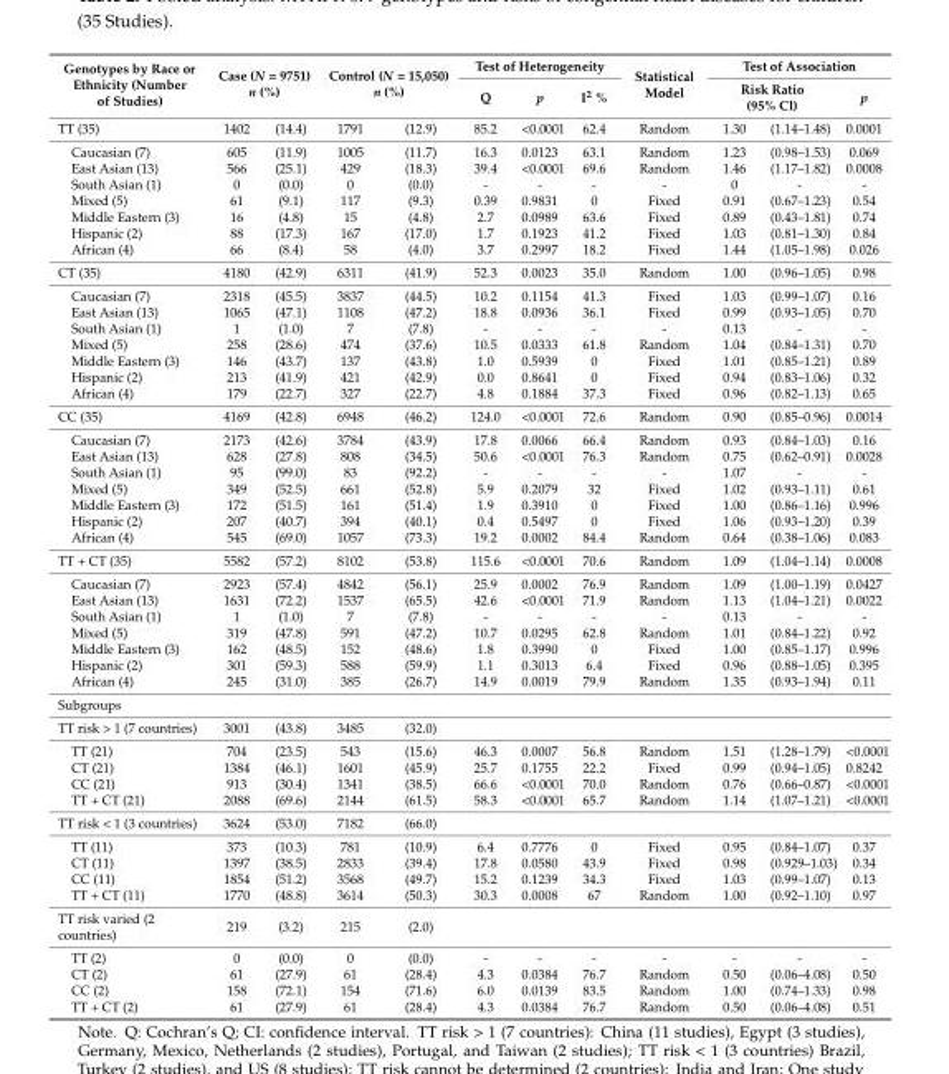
<table><thead><tr><td rowspan="3">Genotypes by Race or Ethnicity (Number of Studies) TT (35)</td><td rowspan="2" colspan="2">Case (N = 9751) n (%)</td><td rowspan="2" colspan="2">Control (N = 15,050) n (%)</td><td colspan="3">Test of Heterogeneity</td><td rowspan="3">Statistical Model Random</td><td colspan="3">Test of Association</td></tr><tr><td rowspan="2">Q 85.2</td><td rowspan="2">p &lt;0.0001</td><td rowspan="2">I<sup>2</sup> % 62.4</td><td colspan="2">Risk Ratio (95% Cl)</td><td rowspan="2">p 0.0001</td></tr><tr><td>1402</td><td>(14.4)</td><td>1791</td><td>(12.9)</td><td>1.30</td><td>(1.14–1.48)</td></tr></thead><tbody><tr><td>Caucasian (7)</td><td>605</td><td>(11.9)</td><td>1005</td><td>(11.7)</td><td>16.3</td><td>0.0123</td><td>63.1</td><td>Random</td><td>1.23</td><td>(0.98–1.53)</td><td>0.069</td></tr><tr><td>East Asian (13)</td><td>566</td><td>(25.1)</td><td>429</td><td>(18.3)</td><td>39.4</td><td>&lt;0.0001</td><td>69.6</td><td>Random</td><td>1.46</td><td>(1.17–1.82)</td><td>0.0008</td></tr><tr><td>South Asian (1)</td><td>0</td><td>(0.0)</td><td>0</td><td>(0.0)</td><td>-</td><td>-</td><td>-</td><td>-</td><td>0</td><td>-</td><td>-</td></tr><tr><td>Mixed (5)</td><td>61</td><td>(9.1)</td><td>117</td><td>(9.3)</td><td>0.39</td><td>0.9831</td><td>0</td><td>Fixed</td><td>0.91</td><td>(0.67–1.23)</td><td>0.54</td></tr><tr><td>Middle Eastern (3)</td><td>16</td><td>(4.8)</td><td>15</td><td>(4.8)</td><td>2.7</td><td>0.0989</td><td>63.6</td><td>Fixed</td><td>0.89</td><td>(0.43–1.81)</td><td>0.74</td></tr><tr><td>Hispanic (2)</td><td>88</td><td>(17.3)</td><td>167</td><td>(17.0)</td><td>1.7</td><td>0.1923</td><td>41.2</td><td>Fixed</td><td>1.03</td><td>(0.81–1.30)</td><td>0.84</td></tr><tr><td>African (4)</td><td>66</td><td>(8.4)</td><td>58</td><td>(4.0)</td><td>3.7</td><td>0.2997</td><td>18.2</td><td>Fixed</td><td>1.44</td><td>(1.05–1.98)</td><td>0.026</td></tr><tr><td>CT (35)</td><td>4180</td><td>(42.9)</td><td>6311</td><td>(41.9)</td><td>52.3</td><td>0.0023</td><td>35.0</td><td>Random</td><td>1.00</td><td>(0.96–1.05)</td><td>0.98</td></tr><tr><td>Caucasian (7)</td><td>2318</td><td>(45.5)</td><td>3837</td><td>(44.5)</td><td>10.2</td><td>0.1154</td><td>41.3</td><td>Fixed</td><td>1.03</td><td>(0.99–1.07)</td><td>0.16</td></tr><tr><td>East Asian (13)</td><td>1065</td><td>(47.1)</td><td>1108</td><td>(47.2)</td><td>18.8</td><td>0.0936</td><td>36.1</td><td>Fixed</td><td>0.99</td><td>(0.93–1.05)</td><td>0.70</td></tr><tr><td>South Asian (1)</td><td>1</td><td>(1.0)</td><td>7</td><td>(7.8)</td><td>-</td><td>-</td><td>-</td><td>-</td><td>0.13</td><td>-</td><td>-</td></tr><tr><td>Mixed (5)</td><td>258</td><td>(28.6)</td><td>474</td><td>(37.6)</td><td>10.5</td><td>0.0333</td><td>61.8</td><td>Random</td><td>1.04</td><td>(0.84–1.31)</td><td>0.70</td></tr><tr><td>Middle Eastern (3)</td><td>146</td><td>(43.7)</td><td>137</td><td>(43.8)</td><td>1.0</td><td>0.5939</td><td>0</td><td>Fixed</td><td>1.01</td><td>(0.85–1.21)</td><td>0.89</td></tr><tr><td>Hispanic (2)</td><td>213</td><td>(41.9)</td><td>421</td><td>(42.9)</td><td>0.0</td><td>0.8641</td><td>0</td><td>Fixed</td><td>0.94</td><td>(0.83–1.06)</td><td>0.32</td></tr><tr><td>African (4)</td><td>179</td><td>(22.7)</td><td>327</td><td>(22.7)</td><td>4.8</td><td>0.1884</td><td>37.3</td><td>Fixed</td><td>0.96</td><td>(0.82–1.13)</td><td>0.65</td></tr><tr><td>CC (35)</td><td>4169</td><td>(42.8)</td><td>6948</td><td>(46.2)</td><td>124.0</td><td>&lt;0.0001</td><td>72.6</td><td>Random</td><td>0.90</td><td>(0.85–0.96)</td><td>0.0014</td></tr><tr><td>Caucasian (7)</td><td>2173</td><td>(42.6)</td><td>3784</td><td>(43.9)</td><td>17.8</td><td>0.0066</td><td>66.4</td><td>Random</td><td>0.93</td><td>(0.84–1.03)</td><td>0.16</td></tr><tr><td>East Asian (13)</td><td>628</td><td>(27.8)</td><td>808</td><td>(34.5)</td><td>50.6</td><td>&lt;0.0001</td><td>76.3</td><td>Random</td><td>0.75</td><td>(0.62–0.91)</td><td>0.0028</td></tr><tr><td>South Asian (1)</td><td>95</td><td>(99.0)</td><td>83</td><td>(92.2)</td><td>-</td><td>-</td><td>-</td><td>-</td><td>1.07</td><td>-</td><td>-</td></tr><tr><td>Mixed (5)</td><td>349</td><td>(52.5)</td><td>661</td><td>(52.8)</td><td>5.9</td><td>0.2079</td><td>32</td><td>Fixed</td><td>1.02</td><td>(0.93–1.11)</td><td>0.61</td></tr><tr><td>Middle Eastern (3)</td><td>172</td><td>(51.5)</td><td>161</td><td>(51.4)</td><td>1.9</td><td>0.3910</td><td>0</td><td>Fixed</td><td>1.00</td><td>(0.86–1.16)</td><td>0.996</td></tr><tr><td>Hispanic (2)</td><td>207</td><td>(40.7)</td><td>394</td><td>(40.1)</td><td>0.4</td><td>0.5497</td><td>0</td><td>Fixed</td><td>1.06</td><td>(0.93–1.20)</td><td>0.39</td></tr><tr><td>African (4)</td><td>545</td><td>(69.0)</td><td>1057</td><td>(73.3)</td><td>19.2</td><td>0.0002</td><td>84.4</td><td>Random</td><td>0.64</td><td>(0.38–1.06)</td><td>0.083</td></tr><tr><td>TT + CT (35)</td><td>5582</td><td>(57.2)</td><td>8102</td><td>(53.8)</td><td>115.6</td><td>&lt;0.0001</td><td>70.6</td><td>Random</td><td>1.09</td><td>(1.04–1.14)</td><td>0.0008</td></tr><tr><td>Caucasian (7)</td><td>2923</td><td>(57.4)</td><td>4842</td><td>(56.1)</td><td>25.9</td><td>0.0002</td><td>76.9</td><td>Random</td><td>1.09</td><td>(1.00–1.19)</td><td>0.0427</td></tr><tr><td>East Asian (13)</td><td>1631</td><td>(72.2)</td><td>1537</td><td>(65.5)</td><td>42.6</td><td>&lt;0.0001</td><td>71.9</td><td>Random</td><td>1.13</td><td>(1.04–1.21)</td><td>0.0022</td></tr><tr><td>South Asian (1)</td><td>1</td><td>(1.0)</td><td>7</td><td>(7.8)</td><td>-</td><td>-</td><td>-</td><td>-</td><td>0.13</td><td>-</td><td>-</td></tr><tr><td>Mixed (5)</td><td>319</td><td>(47.8)</td><td>591</td><td>(47.2)</td><td>10.7</td><td>0.0295</td><td>62.8</td><td>Random</td><td>1.01</td><td>(0.84–1.22)</td><td>0.92</td></tr><tr><td>Middle Eastern (3)</td><td>162</td><td>(48.5)</td><td>152</td><td>(48.6)</td><td>1.8</td><td>0.3990</td><td>0</td><td>Fixed</td><td>1.00</td><td>(0.85–1.17)</td><td>0.996</td></tr><tr><td>Hispanic (2)</td><td>301</td><td>(59.3)</td><td>588</td><td>(59.9)</td><td>1.1</td><td>0.3013</td><td>6.4</td><td>Fixed</td><td>0.96</td><td>(0.88–1.05)</td><td>0.395</td></tr><tr><td>African (4)</td><td>245</td><td>(31.0)</td><td>385</td><td>(26.7)</td><td>14.9</td><td>0.0019</td><td>79.9</td><td>Random</td><td>1.35</td><td>(0.93–1.94)</td><td>0.11</td></tr><tr><td colspan="12">Subgroups</td></tr><tr><td>TT risk &gt; 1 (7 countries)</td><td>3001</td><td>(43.8)</td><td>3485</td><td>(32.0)</td><td></td><td></td><td></td><td></td><td></td><td></td><td></td></tr><tr><td>TT (21)</td><td>704</td><td>(23.5)</td><td>543</td><td>(15.6)</td><td>46.3</td><td>0.0007</td><td>56.8</td><td>Random</td><td>1.51</td><td>(1.28–1.79)</td><td>&lt;0.0001</td></tr><tr><td>CT (21)</td><td>1384</td><td>(46.1)</td><td>1601</td><td>(45.9)</td><td>25.7</td><td>0.1755</td><td>22.2</td><td>Fixed</td><td>0.99</td><td>(0.94–1.05)</td><td>0.8242</td></tr><tr><td>CC (21)</td><td>913</td><td>(30.4)</td><td>1341</td><td>(38.5)</td><td>66.6</td><td>&lt;0.0001</td><td>70.0</td><td>Random</td><td>0.76</td><td>(0.66–0.87)</td><td>&lt;0.0001</td></tr><tr><td>TT + CT (21)</td><td>2088</td><td>(69.6)</td><td>2144</td><td>(61.5)</td><td>58.3</td><td>&lt;0.0001</td><td>65.7</td><td>Random</td><td>1.14</td><td>(1.07–1.21)</td><td>&lt;0.0001</td></tr><tr><td>TT risk &lt; 1 (3 countries)</td><td>3624</td><td>(53.0)</td><td>7182</td><td>(66.0)</td><td></td><td></td><td></td><td></td><td></td><td></td><td></td></tr><tr><td>TT (11)</td><td>373</td><td>(10.3)</td><td>781</td><td>(10.9)</td><td>6.4</td><td>0.7776</td><td>0</td><td>Fixed</td><td>0.95</td><td>(0.84–1.07)</td><td>0.37</td></tr><tr><td>CT (11)</td><td>1397</td><td>(38.5)</td><td>2833</td><td>(39.4)</td><td>17.8</td><td>0.0580</td><td>43.9</td><td>Fixed</td><td>0.98</td><td>(0.929–1.03)</td><td>0.34</td></tr><tr><td>CC (11)</td><td>1854</td><td>(51.2)</td><td>3568</td><td>(49.7)</td><td>15.2</td><td>0.1239</td><td>34.3</td><td>Fixed</td><td>1.03</td><td>(0.99–1.07)</td><td>0.13</td></tr><tr><td>TT + CT (11)</td><td>1770</td><td>(48.8)</td><td>3614</td><td>(50.3)</td><td>30.3</td><td>0.0008</td><td>67</td><td>Random</td><td>1.00</td><td>(0.92–1.10)</td><td>0.97</td></tr><tr><td>TT risk varied (2 countries)</td><td>219</td><td>(3.2)</td><td>215</td><td>(2.0)</td><td></td><td></td><td></td><td></td><td></td><td></td><td></td></tr><tr><td>TT (2)</td><td>0</td><td>(0.0)</td><td>0</td><td>(0.0)</td><td>-</td><td>-</td><td>-</td><td>-</td><td>-</td><td>-</td><td>-</td></tr><tr><td>CT (2)</td><td>61</td><td>(27.9)</td><td>61</td><td>(28.4)</td><td>4.3</td><td>0.0384</td><td>76.7</td><td>Random</td><td>0.50</td><td>(0.06–4.08)</td><td>0.50</td></tr><tr><td>CC (2)</td><td>158</td><td>(72.1)</td><td>154</td><td>(71.6)</td><td>6.0</td><td>0.0139</td><td>83.5</td><td>Random</td><td>1.00</td><td>(0.74–1.33)</td><td>0.98</td></tr><tr><td>TT + CT (2)</td><td>61</td><td>(27.9)</td><td>61</td><td>(28.4)</td><td>4.3</td><td>0.0384</td><td>76.7</td><td>Random</td><td>0.50</td><td>(0.06–4.08)</td><td>0.51</td></tr></tbody></table>